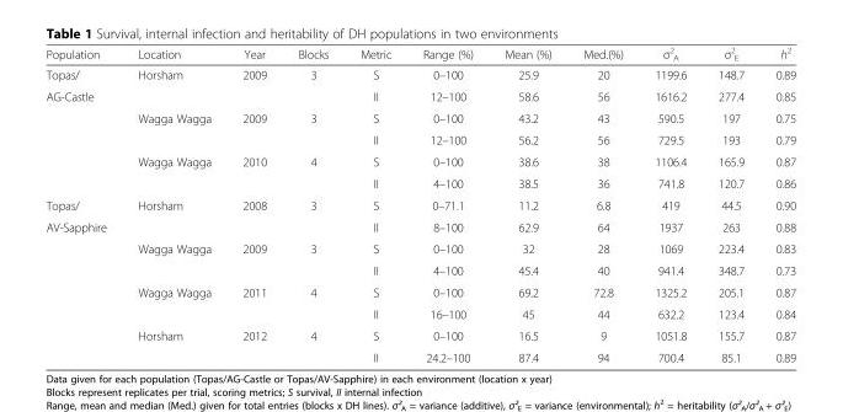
<table><thead><tr><td>Population</td><td>Location</td><td>Year</td><td>Blocks</td><td>Metric</td><td>Range (%)</td><td>Mean (%)</td><td>Med.(%)</td><td>σ<sup>2</sup> <sub>A</sub></td><td>σ<sup>2</sup> <sub>E</sub></td><td>h<sup>2</sup></td></tr></thead><tbody><tr><td>Topas/</td><td>Horsham</td><td>2009</td><td>3</td><td>S</td><td>0–100</td><td>25.9</td><td>20</td><td>1199.6</td><td>148.7</td><td>0.89</td></tr><tr><td rowspan="5">AG-Castle</td><td></td><td></td><td></td><td>II</td><td>12–100</td><td>58.6</td><td>56</td><td>1616.2</td><td>277.4</td><td>0.85</td></tr><tr><td>Wagga Wagga</td><td>2009</td><td>3</td><td>S</td><td>0–100</td><td>43.2</td><td>43</td><td>590.5</td><td>197</td><td>0.75</td></tr><tr><td></td><td></td><td></td><td>II</td><td>12–100</td><td>56.2</td><td>56</td><td>729.5</td><td>193</td><td>0.79</td></tr><tr><td>Wagga Wagga</td><td>2010</td><td>4</td><td>S</td><td>0–100</td><td>38.6</td><td>38</td><td>1106.4</td><td>165.9</td><td>0.87</td></tr><tr><td></td><td></td><td></td><td>II</td><td>4–100</td><td>38.5</td><td>36</td><td>741.8</td><td>120.7</td><td>0.86</td></tr><tr><td>Topas/</td><td>Horsham</td><td>2008</td><td>3</td><td>S</td><td>0–71.1</td><td>11.2</td><td>6.8</td><td>419</td><td>44.5</td><td>0.90</td></tr><tr><td rowspan="7">AV-Sapphire</td><td></td><td></td><td></td><td>II</td><td>8–100</td><td>62.9</td><td>64</td><td>1937</td><td>263</td><td>0.88</td></tr><tr><td>Wagga Wagga</td><td>2009</td><td>3</td><td>S</td><td>0–100</td><td>32</td><td>28</td><td>1069</td><td>223.4</td><td>0.83</td></tr><tr><td></td><td></td><td></td><td>II</td><td>4–100</td><td>45.4</td><td>40</td><td>941.4</td><td>348.7</td><td>0.73</td></tr><tr><td>Wagga Wagga</td><td>2011</td><td>4</td><td>S</td><td>0–100</td><td>69.2</td><td>72.8</td><td>1325.2</td><td>205.1</td><td>0.87</td></tr><tr><td></td><td></td><td></td><td>II</td><td>16–100</td><td>45</td><td>44</td><td>632.2</td><td>123.4</td><td>0.84</td></tr><tr><td>Horsham</td><td>2012</td><td>4</td><td>S</td><td>0–100</td><td>16.5</td><td>9</td><td>1051.8</td><td>155.7</td><td>0.87</td></tr><tr><td></td><td></td><td></td><td>II</td><td>24.2–100</td><td>87.4</td><td>94</td><td>700.4</td><td>85.1</td><td>0.89</td></tr></tbody></table>